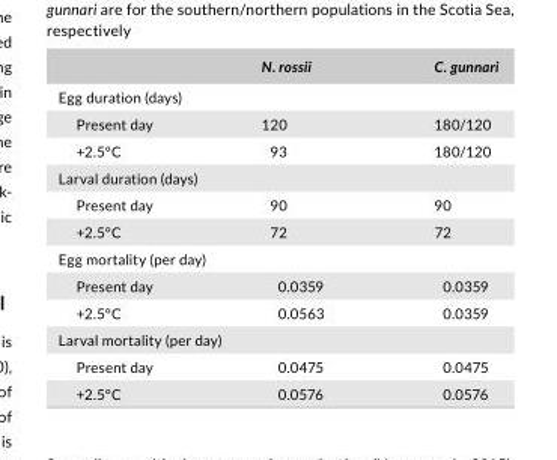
<table><thead><tr><td></td><td>N. rossii</td><td>C. gunnari</td></tr></thead><tbody><tr><td colspan="3">Egg duration (days)</td></tr><tr><td>Present day</td><td>120</td><td>180/120</td></tr><tr><td>+2.5°C</td><td>93</td><td>180/120</td></tr><tr><td colspan="3">Larval duration (days)</td></tr><tr><td>Present day</td><td>90</td><td>90</td></tr><tr><td>+2.5°C</td><td>72</td><td>72</td></tr><tr><td colspan="3">Egg mortality (per day)</td></tr><tr><td>Present day</td><td>0.0359</td><td>0.0359</td></tr><tr><td>+2.5°C</td><td>0.0563</td><td>0.0359</td></tr><tr><td colspan="3">Larval mortality (per day)</td></tr><tr><td>Present day</td><td>0.0475</td><td>0.0475</td></tr><tr><td>+2.5°C</td><td>0.0576</td><td>0.0576</td></tr></tbody></table>